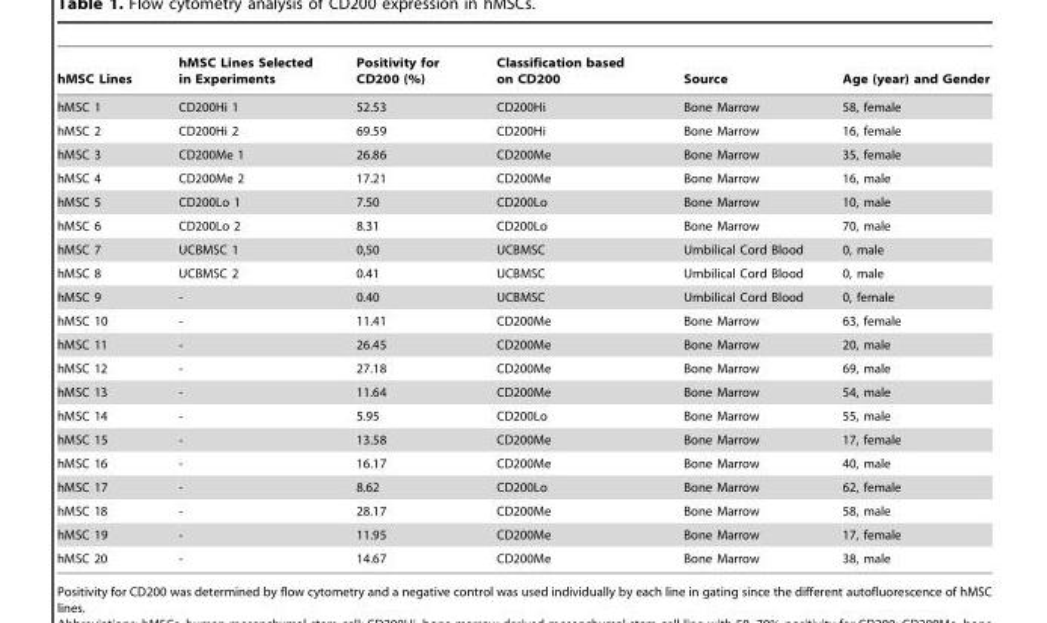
<table><thead><tr><td>hMSC Lines</td><td>hMSC Lines Selected in Experiments</td><td>Positivity for CD200 (%)</td><td>Classification based on CD200</td><td>Source</td><td>Age (year) and Gender</td></tr></thead><tbody><tr><td>hMSC 1</td><td>CD200Hi 1</td><td>52.53</td><td>CD200Hi</td><td>Bone Marrow</td><td>58, female</td></tr><tr><td>hMSC 2</td><td>CD200Hi 2</td><td>69.59</td><td>CD200Hi</td><td>Bone Marrow</td><td>16, female</td></tr><tr><td>hMSC 3</td><td>CD200Me 1</td><td>26.86</td><td>CD200Me</td><td>Bone Marrow</td><td>35, female</td></tr><tr><td>hMSC 4</td><td>CD200Me 2</td><td>17.21</td><td>CD200Me</td><td>Bone Marrow</td><td>16, male</td></tr><tr><td>hMSC 5</td><td>CD200Lo 1</td><td>7.50</td><td>CD200Lo</td><td>Bone Marrow</td><td>10, male</td></tr><tr><td>hMSC 6</td><td>CD200Lo 2</td><td>8.31</td><td>CD200Lo</td><td>Bone Marrow</td><td>70, male</td></tr><tr><td>hMSC 7</td><td>UCBMSC 1</td><td>0,50</td><td>UCBMSC</td><td>Umbilical Cord Blood</td><td>0, male</td></tr><tr><td>hMSC 8</td><td>UCBMSC 2</td><td>0.41</td><td>UCBMSC</td><td>Umbilical Cord Blood</td><td>0, male</td></tr><tr><td>hMSC 9</td><td>-</td><td>0.40</td><td>UCBMSC</td><td>Umbilical Cord Blood</td><td>0, female</td></tr><tr><td>hMSC 10</td><td>-</td><td>11.41</td><td>CD200Me</td><td>Bone Marrow</td><td>63, female</td></tr><tr><td>hMSC 11</td><td>-</td><td>26.45</td><td>CD200Me</td><td>Bone Marrow</td><td>20, male</td></tr><tr><td>hMSC 12</td><td>-</td><td>27.18</td><td>CD200Me</td><td>Bone Marrow</td><td>69, male</td></tr><tr><td>hMSC 13</td><td>-</td><td>11.64</td><td>CD200Me</td><td>Bone Marrow</td><td>54, male</td></tr><tr><td>hMSC 14</td><td>-</td><td>5.95</td><td>CD200Lo</td><td>Bone Marrow</td><td>55, male</td></tr><tr><td>hMSC 15</td><td>-</td><td>13.58</td><td>CD200Me</td><td>Bone Marrow</td><td>17, female</td></tr><tr><td>hMSC 16</td><td>-</td><td>16.17</td><td>CD200Me</td><td>Bone Marrow</td><td>40, male</td></tr><tr><td>hMSC 17</td><td>-</td><td>8.62</td><td>CD200Lo</td><td>Bone Marrow</td><td>62, female</td></tr><tr><td>hMSC 18</td><td>-</td><td>28.17</td><td>CD200Me</td><td>Bone Marrow</td><td>58, male</td></tr><tr><td>hMSC 19</td><td>-</td><td>11.95</td><td>CD200Me</td><td>Bone Marrow</td><td>17, female</td></tr><tr><td>hMSC 20</td><td>-</td><td>14.67</td><td>CD200Me</td><td>Bone Marrow</td><td>38, male</td></tr></tbody></table>